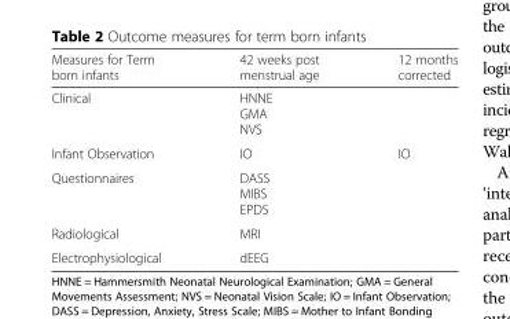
<table><thead><tr><td>Measures for Term born infants</td><td>42 weeks post menstrual age</td><td>12 months corrected</td></tr></thead><tbody><tr><td>Clinical</td><td>HNNE GMA NVS</td><td></td></tr><tr><td>Infant Observation</td><td>IO</td><td>IO</td></tr><tr><td>Questionnaires</td><td>DASS MIBS EPDS</td><td></td></tr><tr><td>Radiological</td><td>MRI</td><td></td></tr><tr><td>Electrophysiological</td><td>dEEG</td><td></td></tr></tbody></table>